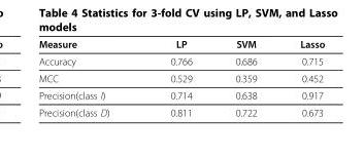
<table><thead><tr><td>Measure</td><td>LP</td><td>SVM</td><td>Lasso</td></tr></thead><tbody><tr><td>Accuracy</td><td>0.766</td><td>0.686</td><td>0.715</td></tr><tr><td>MCC</td><td>0.529</td><td>0.359</td><td>0.452</td></tr><tr><td>Precision(class I)</td><td>0.714</td><td>0.638</td><td>0.917</td></tr><tr><td>Precision(class D)</td><td>0.811</td><td>0.722</td><td>0.673</td></tr></tbody></table>